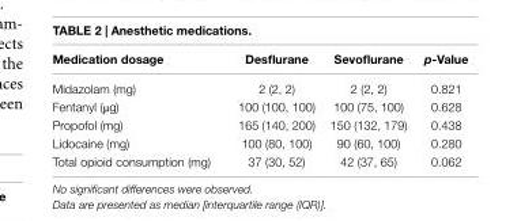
<table><thead><tr><td>Medication dosage</td><td>Desflurane</td><td>sevoflurane</td><td>p-Value</td></tr></thead><tbody><tr><td>Midazolam (mg)</td><td>2 (2, 2)</td><td>2 (2, 2)</td><td>0.821</td></tr><tr><td>Fentanyl (μg)</td><td>100 (100, 100)</td><td>100 (75, 100)</td><td>0.628</td></tr><tr><td>Propofol (mg)</td><td>165 (140, 200)</td><td>150 (132, 179)</td><td>0.438</td></tr><tr><td>Lidocaine (mg)</td><td>100 (80, 100)</td><td>90 (60, 100)</td><td>0.280</td></tr><tr><td>Total opioid consumption (mg)</td><td>37 (30, 52)</td><td>42 (37, 65)</td><td>0.062</td></tr></tbody></table>